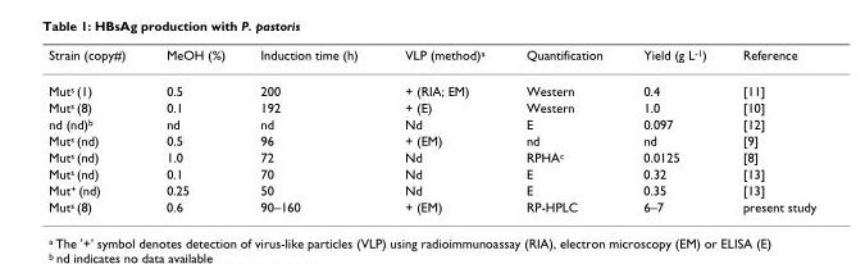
<table><thead><tr><td>Strain (copy#)</td><td>MeOH (%)</td><td>Induction time (h)</td><td>VLP (method)<sup>a</sup></td><td>Quantification</td><td>Yield (g L<sup>-1</sup>)</td><td>Reference</td></tr></thead><tbody><tr><td>Mut<sup>s</sup> (1)</td><td>0.5</td><td>200</td><td>+ (RIA; EM)</td><td>Western</td><td>0.4</td><td>[11]</td></tr><tr><td>Mut<sup>s</sup> (8)</td><td>0.1</td><td>192</td><td>+ (E)</td><td>Western</td><td>1.0</td><td>[10]</td></tr><tr><td>nd (nd)<sup>b</sup></td><td>nd</td><td>nd</td><td>Nd</td><td>E</td><td>0.097</td><td>[12]</td></tr><tr><td>Mut<sup>s</sup> (nd)</td><td>0.5</td><td>96</td><td>+ (EM)</td><td>nd</td><td>nd</td><td>[9]</td></tr><tr><td>Mut<sup>s</sup> (nd)</td><td>1.0</td><td>72</td><td>Nd</td><td>RPHA<sup>c</sup></td><td>0.0125</td><td>[8]</td></tr><tr><td>Mut<sup>s</sup> (nd)</td><td>0.1</td><td>70</td><td>Nd</td><td>E</td><td>0.32</td><td>[13]</td></tr><tr><td>Mut<sup>+</sup> (nd)</td><td>0.25</td><td>50</td><td>Nd</td><td>E</td><td>0.35</td><td>[13]</td></tr><tr><td>Mut<sup>s</sup> (8)</td><td>0.6</td><td>90–160</td><td>+ (EM)</td><td>RP-HPLC</td><td>6–7</td><td>present study</td></tr></tbody></table>